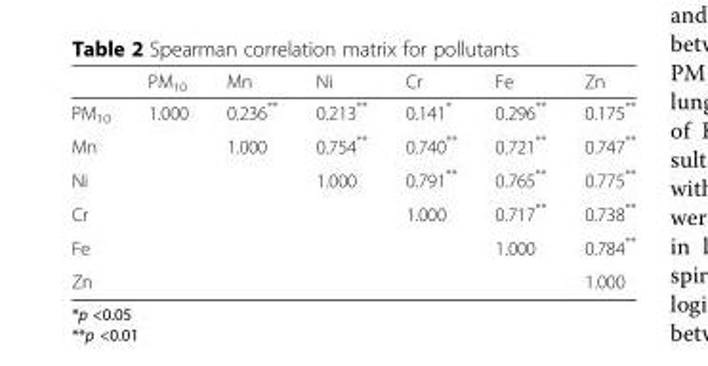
<table><thead><tr><td></td><td>PM<sub>10</sub></td><td>Mn</td><td>Ni</td><td>Cr</td><td>Fe</td><td>Zn</td></tr></thead><tbody><tr><td>PM<sub>10</sub></td><td>1.000</td><td>0.236**</td><td>0.213**</td><td>0.141*</td><td>0.296**</td><td>0.175**</td></tr><tr><td>Mn</td><td></td><td>1.000</td><td>0.754**</td><td>0.740**</td><td>0.721**</td><td>0.747**</td></tr><tr><td>Ni</td><td></td><td></td><td>1.000</td><td>0.791**</td><td>0.765**</td><td>0.775**</td></tr><tr><td>Cr</td><td></td><td></td><td></td><td>1.000</td><td>0.717**</td><td>0.738**</td></tr><tr><td>Fe</td><td></td><td></td><td></td><td></td><td>1.000</td><td>0.784**</td></tr><tr><td>Zn</td><td></td><td></td><td></td><td></td><td></td><td>1.000</td></tr></tbody></table>